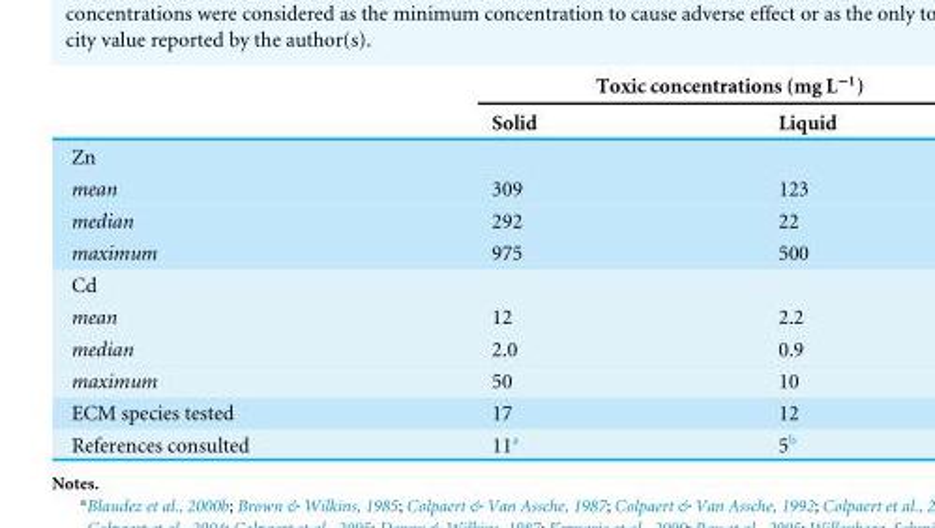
<table><thead><tr><td rowspan="2"></td><td colspan="2">Toxic concentrations (mg L<sup>−1</sup>)</td></tr><tr><td>Solid</td><td>Liquid</td></tr></thead><tbody><tr><td colspan="3">Zn</td></tr><tr><td>mean</td><td>309</td><td>123</td></tr><tr><td>median</td><td>292</td><td>22</td></tr><tr><td>maximum</td><td>975</td><td>500</td></tr><tr><td colspan="3">Cd</td></tr><tr><td>mean</td><td>12</td><td>2.2</td></tr><tr><td>median</td><td>2.0</td><td>0.9</td></tr><tr><td>maximum</td><td>50</td><td>10</td></tr><tr><td>ECM species tested</td><td>17</td><td>12</td></tr><tr><td>References consulted</td><td>11<sup>a</sup></td><td>5<sup>b</sup></td></tr></tbody></table>